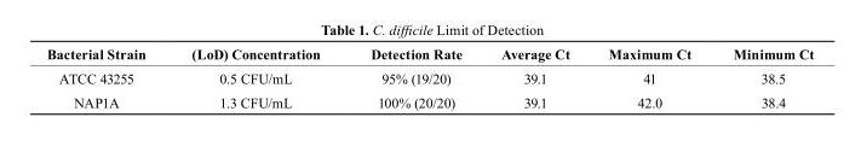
<table><thead><tr><td>bacterial strain</td><td>(LoD) concentration</td><td>Detection rate</td><td>Average ct</td><td>Maximum ct</td><td>Minimum ct</td></tr></thead><tbody><tr><td>ATCC 43255</td><td>0.5 CFU/mL</td><td>95% (19/20)</td><td>39.1</td><td>41</td><td>38.5</td></tr><tr><td>NAP1A</td><td>1.3 CFU/mL</td><td>100% (20/20)</td><td>39.1</td><td>42.0</td><td>38.4</td></tr></tbody></table>